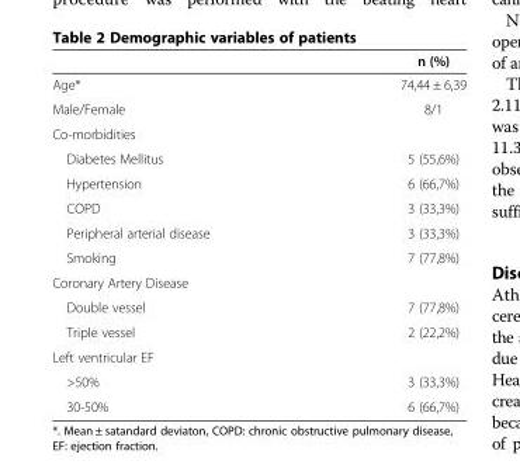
<table><thead><tr><td></td><td>n (%)</td></tr></thead><tbody><tr><td>Age*</td><td>74,44 ± 6,39</td></tr><tr><td>Male/Female</td><td>8/1</td></tr><tr><td colspan="2">Co-morbidities</td></tr><tr><td>Diabetes Mellitus</td><td>5 (55,6%)</td></tr><tr><td>Hypertension</td><td>6 (66,7%)</td></tr><tr><td>COPD</td><td>3 (33,3%)</td></tr><tr><td>Peripheral arterial disease</td><td>3 (33,3%)</td></tr><tr><td>Smoking</td><td>7 (77,8%)</td></tr><tr><td colspan="2">Coronary Artery Disease</td></tr><tr><td>Double vessel</td><td>7 (77,8%)</td></tr><tr><td>Triple vessel</td><td>2 (22,2%)</td></tr><tr><td colspan="2">Left ventricular EF</td></tr><tr><td>&gt;50%</td><td>3 (33,3%)</td></tr><tr><td>30-50%</td><td>6 (66,7%)</td></tr></tbody></table>